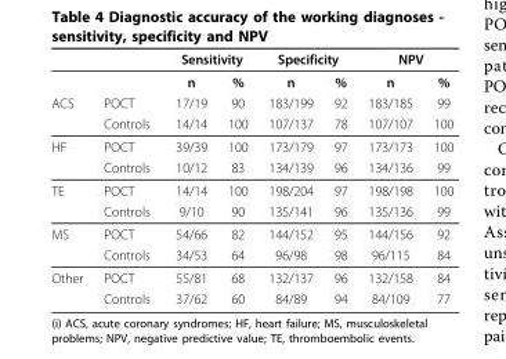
<table><thead><tr><td rowspan="2"></td><td rowspan="2"></td><td colspan="2">Sensitivity</td><td colspan="2">Specificity</td><td colspan="2">NPV</td></tr><tr><td>n</td><td>%</td><td>n</td><td>%</td><td>n</td><td>%</td></tr></thead><tbody><tr><td rowspan="2">ACS</td><td>POCT</td><td>17/19</td><td>90</td><td>183/199</td><td>92</td><td>183/185</td><td>99</td></tr><tr><td>Controls</td><td>14/14</td><td>100</td><td>107/137</td><td>78</td><td>107/107</td><td>100</td></tr><tr><td rowspan="2">HF</td><td>POCT</td><td>39/39</td><td>100</td><td>173/179</td><td>97</td><td>173/173</td><td>100</td></tr><tr><td>Controls</td><td>10/12</td><td>83</td><td>134/139</td><td>96</td><td>134/136</td><td>99</td></tr><tr><td rowspan="2">TE</td><td>POCT</td><td>14/14</td><td>100</td><td>198/204</td><td>97</td><td>198/198</td><td>100</td></tr><tr><td>Controls</td><td>9/10</td><td>90</td><td>135/141</td><td>96</td><td>135/136</td><td>99</td></tr><tr><td rowspan="2">MS</td><td>POCT</td><td>54/66</td><td>82</td><td>144/152</td><td>95</td><td>144/156</td><td>92</td></tr><tr><td>Controls</td><td>34/53</td><td>64</td><td>96/98</td><td>98</td><td>96/115</td><td>84</td></tr><tr><td rowspan="2">Other</td><td>POCT</td><td>55/81</td><td>68</td><td>132/137</td><td>96</td><td>132/158</td><td>84</td></tr><tr><td>Controls</td><td>37/62</td><td>60</td><td>84/89</td><td>94</td><td>84/109</td><td>77</td></tr></tbody></table>